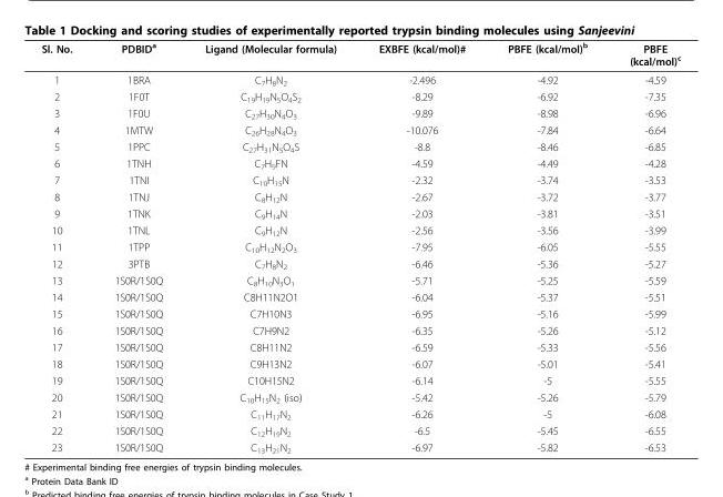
<table><thead><tr><td>Sl. No.</td><td>PDBID<sup>a</sup></td><td>Ligand (Molecular formula)</td><td>EXBFE (kcal/mol)#</td><td>PBFE (kcal/mol)<sup>b</sup></td><td>PBFE (kcal/mol)<sup>c</sup></td></tr></thead><tbody><tr><td>1</td><td>1BRA</td><td>C<sub>7</sub>H<sub>8</sub>N<sub>2</sub></td><td>-2.496</td><td>-4.92</td><td>-4.59</td></tr><tr><td>2</td><td>1F0T</td><td>C<sub>19</sub>H<sub>19</sub>N<sub>5</sub>O<sub>4</sub>S<sub>2</sub></td><td>-8.29</td><td>-6.92</td><td>-7.35</td></tr><tr><td>3</td><td>1F0U</td><td>C<sub>27</sub>H<sub>30</sub>N<sub>4</sub>O<sub>3</sub></td><td>-9.89</td><td>-8.98</td><td>-6.96</td></tr><tr><td>4</td><td>1MTW</td><td>C<sub>26</sub>H<sub>28</sub>N<sub>4</sub>O<sub>3</sub></td><td>-10.076</td><td>-7.84</td><td>-6.64</td></tr><tr><td>5</td><td>1PPC</td><td>C<sub>27</sub>H<sub>31</sub>N<sub>5</sub>O<sub>4</sub>S</td><td>-8.8</td><td>-8.46</td><td>-6.85</td></tr><tr><td>6</td><td>1TNH</td><td>C<sub>7</sub>H<sub>9</sub>FN</td><td>-4.59</td><td>-4.49</td><td>-4.28</td></tr><tr><td>7</td><td>1TNI</td><td>C<sub>10</sub>H<sub>15</sub>N</td><td>-2.32</td><td>-3.74</td><td>-3.53</td></tr><tr><td>8</td><td>1TNJ</td><td>C<sub>8</sub>H<sub>12</sub>N</td><td>-2.67</td><td>-3.72</td><td>-3.77</td></tr><tr><td>9</td><td>1TNK</td><td>C<sub>9</sub>H<sub>14</sub>N</td><td>-2.03</td><td>-3.81</td><td>-3.51</td></tr><tr><td>10</td><td>1TNL</td><td>C<sub>9</sub>H<sub>12</sub>N</td><td>-2.56</td><td>-3.56</td><td>-3.99</td></tr><tr><td>11</td><td>1TPP</td><td>C<sub>10</sub>H<sub>12</sub>N<sub>2</sub>O<sub>3</sub></td><td>-7.95</td><td>-6.05</td><td>-5.55</td></tr><tr><td>12</td><td>3PTB</td><td>C<sub>7</sub>H<sub>8</sub>N<sub>2</sub></td><td>-6.46</td><td>-5.36</td><td>-5.27</td></tr><tr><td>13</td><td>1S0R/1S0Q</td><td>C<sub>8</sub>H<sub>10</sub>N<sub>3</sub>O<sub>1</sub></td><td>-5.71</td><td>-5.25</td><td>-5.59</td></tr><tr><td>14</td><td>1S0R/1S0Q</td><td>C8H11N2O1</td><td>-6.04</td><td>-5.37</td><td>-5.51</td></tr><tr><td>15</td><td>1S0R/1S0Q</td><td>C7H10N3</td><td>-6.95</td><td>-5.16</td><td>-5.99</td></tr><tr><td>16</td><td>1S0R/1S0Q</td><td>C7H9N2</td><td>-6.35</td><td>-5.26</td><td>-5.12</td></tr><tr><td>17</td><td>1S0R/1S0Q</td><td>C8H11N2</td><td>-6.59</td><td>-5.33</td><td>-5.56</td></tr><tr><td>18</td><td>1S0R/1S0Q</td><td>C9H13N2</td><td>-6.07</td><td>-5.01</td><td>-5.41</td></tr><tr><td>19</td><td>1S0R/1S0Q</td><td>C10H15N2</td><td>-6.14</td><td>-5</td><td>-5.55</td></tr><tr><td>20</td><td>1S0R/1S0Q</td><td>C<sub>10</sub>H<sub>15</sub>N<sub>2</sub> (iso)</td><td>-5.42</td><td>-5.26</td><td>-5.79</td></tr><tr><td>21</td><td>1S0R/1S0Q</td><td>C<sub>11</sub>H<sub>17</sub>N<sub>2</sub></td><td>-6.26</td><td>-5</td><td>-6.08</td></tr><tr><td>22</td><td>1S0R/1S0Q</td><td>C<sub>12</sub>H<sub>19</sub>N<sub>2</sub></td><td>-6.5</td><td>-5.45</td><td>-6.55</td></tr><tr><td>23</td><td>1S0R/1S0Q</td><td>C<sub>13</sub>H<sub>21</sub>N<sub>2</sub></td><td>-6.97</td><td>-5.82</td><td>-6.53</td></tr></tbody></table>